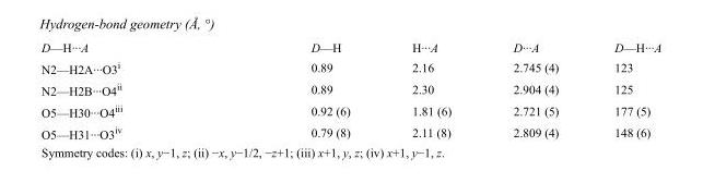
<table><tbody><tr><td>D—H···A</td><td>D—H</td><td>H···A</td><td>D···A</td><td>D—H···A</td></tr><tr><td>N2—H2A···O3<sup>i</sup></td><td>0.89</td><td>2.16</td><td>2.745 (4)</td><td>123</td></tr><tr><td>N2—H2B···O4<sup>ii</sup></td><td>0.89</td><td>2.30</td><td>2.904 (4)</td><td>125</td></tr><tr><td>O5—H30···O4<sup>iii</sup></td><td>0.92 (6)</td><td>1.81 (6)</td><td>2.721 (5)</td><td>177 (5)</td></tr><tr><td>O5—H31···O3<sup>iv</sup></td><td>0.79 (8)</td><td>2.11 (8)</td><td>2.809 (4)</td><td>148 (6)</td></tr></tbody></table>